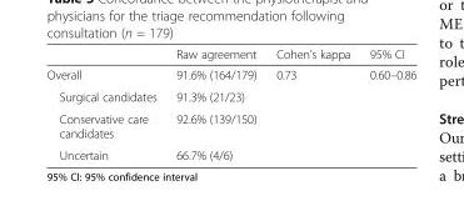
<table><thead><tr><td></td><td>Raw agreement</td><td>Cohen’s kappa</td><td>95% CI</td></tr></thead><tbody><tr><td>Overall</td><td>91.6% (164/179)</td><td>0.73</td><td>0.60–0.86</td></tr><tr><td>Surgical candidates</td><td>91.3% (21/23)</td><td></td><td></td></tr><tr><td>Conservative care candidates</td><td>92.6% (139/150)</td><td></td><td></td></tr><tr><td>Uncertain</td><td>66.7% (4/6)</td><td></td><td></td></tr></tbody></table>